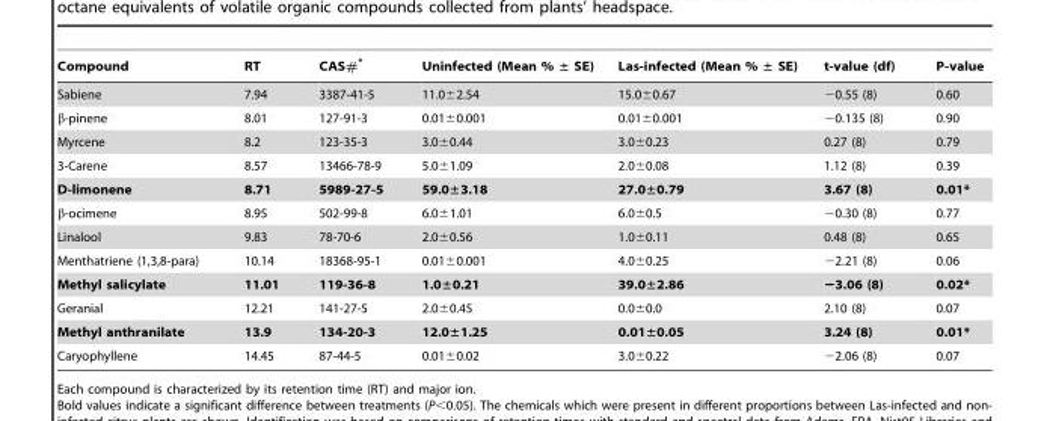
<table><thead><tr><td>Compound</td><td>RT</td><td>CAS#*</td><td>Uninfected (Mean % ± SE)</td><td>Las-infected (Mean % ± SE)</td><td>t-value (df)</td><td>P-value</td></tr></thead><tbody><tr><td>Sabiene</td><td>7.94</td><td>3387-41-5</td><td>11.0±2.54</td><td>15.0±0.67</td><td>−0.55 (8)</td><td>0.60</td></tr><tr><td>β-pinene</td><td>8.01</td><td>127-91-3</td><td>0.01±0.001</td><td>0.01±0.001</td><td>−0.135 (8)</td><td>0.90</td></tr><tr><td>Myrcene</td><td>8.2</td><td>123-35-3</td><td>3.0±0.44</td><td>3.0±0.23</td><td>0.27 (8)</td><td>0.79</td></tr><tr><td>3-Carene</td><td>8.57</td><td>13466-78-9</td><td>5.0±1.09</td><td>2.0±0.08</td><td>1.12 (8)</td><td>0.39</td></tr><tr><td>D-limonene</td><td>8.71</td><td>5989-27-5</td><td>59.0±3.18</td><td>27.0±0.79</td><td>3.67 (8)</td><td>0.01*</td></tr><tr><td>β-ocimene</td><td>8.95</td><td>502-99-8</td><td>6.0±1.01</td><td>6.0±0.5</td><td>−0.30 (8)</td><td>0.77</td></tr><tr><td>Linalool</td><td>9.83</td><td>78-70-6</td><td>2.0±0.56</td><td>1.0±0.11</td><td>0.48 (8)</td><td>0.65</td></tr><tr><td>Menthatriene (1,3,8-para)</td><td>10.14</td><td>18368-95-1</td><td>0.01±0.001</td><td>4.0±0.25</td><td>−2.21 (8)</td><td>0.06</td></tr><tr><td>Methyl salicylate</td><td>11.01</td><td>119-36-8</td><td>1.0±0.21</td><td>39.0±2.86</td><td>−3.06 (8)</td><td>0.02*</td></tr><tr><td>Geranial</td><td>12.21</td><td>141-27-5</td><td>2.0±0.45</td><td>0.0±0.0</td><td>2.10 (8)</td><td>0.07</td></tr><tr><td>Methyl anthranilate</td><td>13.9</td><td>134-20-3</td><td>12.0±1.25</td><td>0.01±0.05</td><td>3.24 (8)</td><td>0.01*</td></tr><tr><td>Caryophyllene</td><td>14.45</td><td>87-44-5</td><td>0.01±0.02</td><td>3.0±0.22</td><td>−2.06 (8)</td><td>0.07</td></tr></tbody></table>